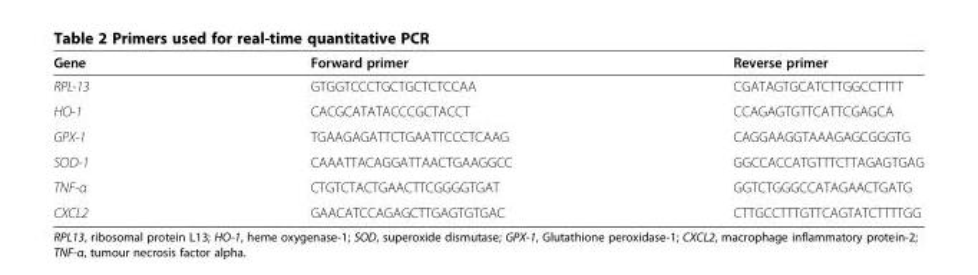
<table><thead><tr><td>Gene</td><td>Forward primer</td><td>Reverse primer</td></tr></thead><tbody><tr><td>RPL-13</td><td>GTGGTCCCTGCTGCTCTCCAA</td><td>CGATAGTGCATCTTGGCCTTTT</td></tr><tr><td>HO-1</td><td>CACGCATATACCCGCTACCT</td><td>CCAGAGTGTTCATTCGAGCA</td></tr><tr><td>GPX-1</td><td>TGAAGAGATTCTGAATTCCCTCAAG</td><td>CAGGAAGGTAAAGAGCGGGTG</td></tr><tr><td>SOD-1</td><td>CAAATTACAGGATTAACTGAAGGCC</td><td>GGCCACCATGTTTCTTAGAGTGAG</td></tr><tr><td>TNF-α</td><td>CTGTCTACTGAACTTCGGGGTGAT</td><td>GGTCTGGGCCATAGAACTGATG</td></tr><tr><td>CXCL2</td><td>GAACATCCAGAGCTTGAGTGTGAC</td><td>CTTGCCTTTGTTCAGTATCTTTTGG</td></tr></tbody></table>